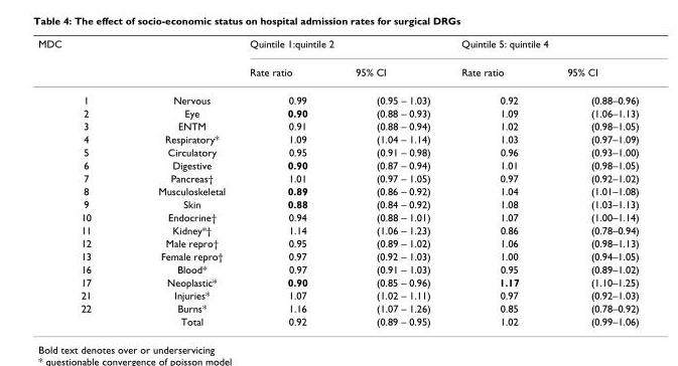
<table><thead><tr><td rowspan="2">MDC</td><td rowspan="2"></td><td colspan="2">Quintile 1:quintile 2</td><td colspan="2">Quintile 5: quintile 4</td></tr><tr><td>Rate ratio</td><td>95% CI</td><td>Rate ratio</td><td>95% CI</td></tr></thead><tbody><tr><td>1</td><td>Nervous</td><td>0.99</td><td>(0.95 – 1.03)</td><td>0.92</td><td>(0.88–0.96)</td></tr><tr><td>2</td><td>Eye</td><td>0.90</td><td>(0.88 – 0.93)</td><td>1.09</td><td>(1.06–1.13)</td></tr><tr><td>3</td><td>ENTM</td><td>0.91</td><td>(0.88 – 0.94)</td><td>1.02</td><td>(0.98–1.05)</td></tr><tr><td>4</td><td>Respiratory*</td><td>1.09</td><td>(1.04 – 1.14)</td><td>1.03</td><td>(0.97–1.09)</td></tr><tr><td>5</td><td>Circulatory</td><td>0.95</td><td>(0.91 – 0.98)</td><td>0.96</td><td>(0.93–1.00)</td></tr><tr><td>6</td><td>Digestive</td><td>0.90</td><td>(0.87 – 0.94)</td><td>1.01</td><td>(0.98–1.05)</td></tr><tr><td>7</td><td>Pancreas†</td><td>1.01</td><td>(0.97 – 1.05)</td><td>0.97</td><td>(0.92–1.02)</td></tr><tr><td>8</td><td>Musculoskeletal</td><td>0.89</td><td>(0.86 – 0.92)</td><td>1.04</td><td>(1.01–1.08)</td></tr><tr><td>9</td><td>Skin</td><td>0.88</td><td>(0.84 – 0.92)</td><td>1.08</td><td>(1.03–1.13)</td></tr><tr><td>10</td><td>Endocrine†</td><td>0.94</td><td>(0.88 – 1.01)</td><td>1.07</td><td>(1.00–1.14)</td></tr><tr><td>11</td><td>Kidney*†</td><td>1.14</td><td>(1.06 – 1.23)</td><td>0.86</td><td>(0.78–0.94)</td></tr><tr><td>12</td><td>Male repro†</td><td>0.95</td><td>(0.89 – 1.02)</td><td>1.06</td><td>(0.98–1.13)</td></tr><tr><td>13</td><td>Female repro†</td><td>0.97</td><td>(0.92 – 1.03)</td><td>1.00</td><td>(0.94–1.05)</td></tr><tr><td>16</td><td>Blood*</td><td>0.97</td><td>(0.91 – 1.03)</td><td>0.95</td><td>(0.89–1.02)</td></tr><tr><td>17</td><td>Neoplastic*</td><td>0.90</td><td>(0.85 – 0.96)</td><td>1.17</td><td>(1.10–1.25)</td></tr><tr><td>21</td><td>Injuries*</td><td>1.07</td><td>(1.02 – 1.11)</td><td>0.97</td><td>(0.92–1.03)</td></tr><tr><td rowspan="2">22</td><td>Burns*</td><td>1.16</td><td>(1.07 – 1.26)</td><td>0.85</td><td>(0.78–0.92)</td></tr><tr><td>Total</td><td>0.92</td><td>(0.89 – 0.95)</td><td>1.02</td><td>(0.99–1.06)</td></tr></tbody></table>